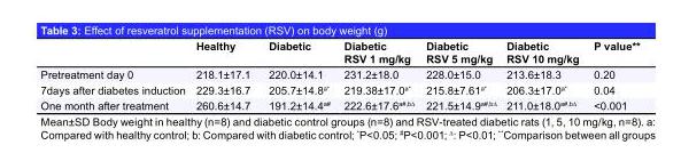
<table><thead><tr><td></td><td>Healthy</td><td>Diabetic</td><td>Diabetic RSV 1 mg/kg</td><td>Diabetic RSV 5 mg/kg</td><td>Diabetic RSV 10 mg/kg</td><td>P value**</td></tr></thead><tbody><tr><td>Pretreatment day 0</td><td>218.1±17.1</td><td>220.0±14.1</td><td>231.2±18.0</td><td>228.0±15.0</td><td>213.6±18.3</td><td>0.20</td></tr><tr><td>7days after diabetes induction</td><td>229.3±16.7</td><td>205.7±14.8<sup>a*</sup></td><td>219.38±17.0<sup>a*</sup></td><td>215.8±7.61<sup>a*</sup></td><td>206.3±17.0<sup>a*</sup></td><td>0.04</td></tr><tr><td>One month after treatment</td><td>260.6±14.7</td><td>191.2±14.4<sup>a#</sup></td><td>222.6±17.6<sup>a#,b∆</sup></td><td>221.5±14.9<sup>a#,b∆</sup></td><td>211.0±18.0<sup>a#,b∆</sup></td><td>&lt;0.001</td></tr></tbody></table>